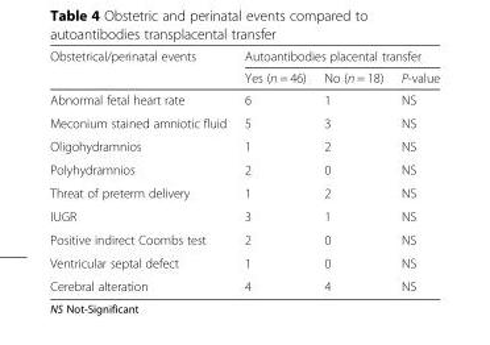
<table><thead><tr><td rowspan="2">Obstetrical/perinatal events</td><td colspan="3">Autoantibodies placental transfer</td></tr><tr><td>Yes (n = 46)</td><td>No (n = 18)</td><td>P-value</td></tr></thead><tbody><tr><td>Abnormal fetal heart rate</td><td>6</td><td>1</td><td>NS</td></tr><tr><td>Meconium stained amniotic fluid</td><td>5</td><td>3</td><td>NS</td></tr><tr><td>Oligohydramnios</td><td>1</td><td>2</td><td>NS</td></tr><tr><td>Polyhydramnios</td><td>2</td><td>0</td><td>NS</td></tr><tr><td>Threat of preterm delivery</td><td>1</td><td>2</td><td>NS</td></tr><tr><td>IUGR</td><td>3</td><td>1</td><td>NS</td></tr><tr><td>Positive indirect Coombs test</td><td>2</td><td>0</td><td>NS</td></tr><tr><td>Ventricular septal defect</td><td>1</td><td>0</td><td>NS</td></tr><tr><td>Cerebral alteration</td><td>4</td><td>4</td><td>NS</td></tr></tbody></table>